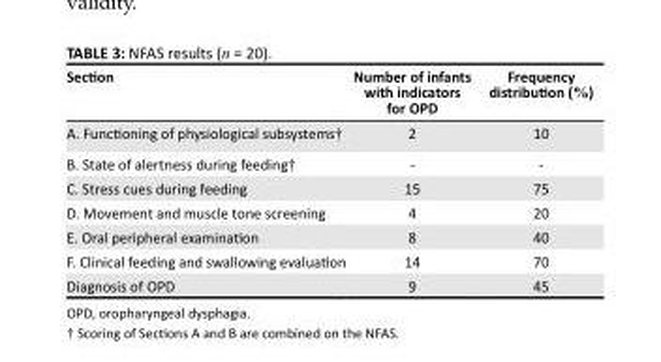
<table><thead><tr><td>Section</td><td>Number of infants with indicators for OPD</td><td>Frequency distribution (%)</td></tr></thead><tbody><tr><td>A. Functioning of physiological subsystems†</td><td>2</td><td>10</td></tr><tr><td>B. State of alertness during feeding†</td><td>-</td><td>-</td></tr><tr><td>C. Stress cues during feeding</td><td>15</td><td>75</td></tr><tr><td>D. Movement and muscle tone screening</td><td>4</td><td>20</td></tr><tr><td>E. Oral peripheral examination</td><td>8</td><td>40</td></tr><tr><td>F. Clinical feeding and swallowing evaluation</td><td>14</td><td>70</td></tr><tr><td>Diagnosis of OPD</td><td>9</td><td>45</td></tr></tbody></table>